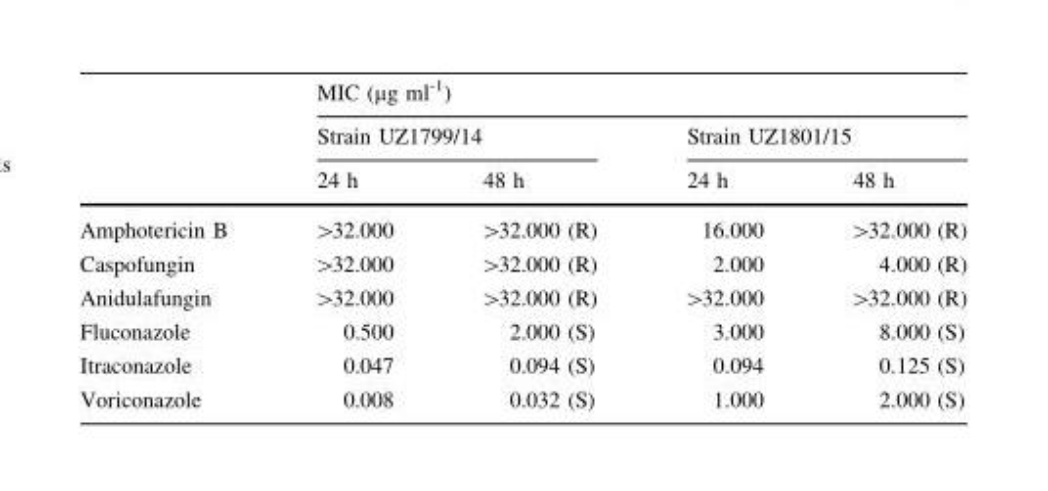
<table><thead><tr><td rowspan="3"></td><td colspan="4">MIC (µg ml<sup>-1</sup>)</td></tr><tr><td colspan="2">Strain UZ1799/14</td><td colspan="2">Strain UZ1801/15</td></tr><tr><td>24 h</td><td>48 h</td><td>24 h</td><td>48 h</td></tr></thead><tbody><tr><td>Amphotericin B</td><td>&gt;32.000</td><td>&gt;32.000 (R)</td><td>16.000</td><td>&gt;32.000 (R)</td></tr><tr><td>Caspofungin</td><td>&gt;32.000</td><td>&gt;32.000 (R)</td><td>2.000</td><td>4.000 (R)</td></tr><tr><td>Anidulafungin</td><td>&gt;32.000</td><td>&gt;32.000 (R)</td><td>&gt;32.000</td><td>&gt;32.000 (R)</td></tr><tr><td>Fluconazole</td><td>0.500</td><td>2.000 (S)</td><td>3.000</td><td>8.000 (S)</td></tr><tr><td>Itraconazole</td><td>0.047</td><td>0.094 (S)</td><td>0.094</td><td>0.125 (S)</td></tr><tr><td>Voriconazole</td><td>0.008</td><td>0.032 (S)</td><td>1.000</td><td>2.000 (S)</td></tr></tbody></table>